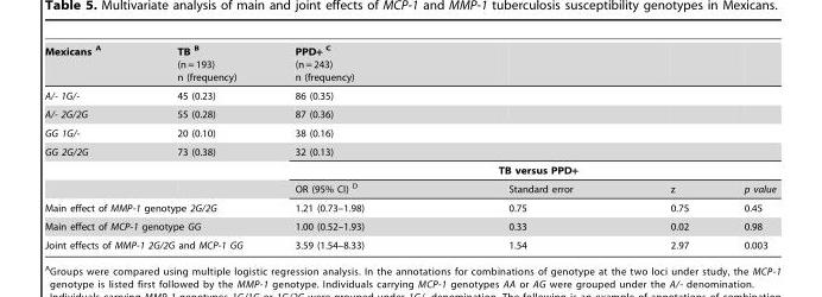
<table><tbody><tr><td>Mexicans A</td><td>TB B (n = 193) n (frequency)</td><td>PPD+ C (n = 243) n (frequency)</td><td></td><td></td><td></td></tr><tr><td>A/- 1G/-</td><td>45 (0.23)</td><td>86 (0.35)</td><td></td><td></td><td></td></tr><tr><td>A/- 2G/2G</td><td>55 (0.28)</td><td>87 (0.36)</td><td></td><td></td><td></td></tr><tr><td>GG 1G/-</td><td>20 (0.10)</td><td>38 (0.16)</td><td></td><td></td><td></td></tr><tr><td rowspan="3">GG 2G/2G</td><td>73 (0.38)</td><td colspan="4">32 (0.13)</td></tr><tr><td></td><td colspan="4">TB versus PPD+</td></tr><tr><td></td><td>OR (95% CI) D</td><td>Standard error</td><td>z</td><td>p value</td></tr><tr><td colspan="2">Main effect of MMP-1 genotype 2G/2G</td><td>1.21 (0.73–1.98)</td><td>0.75</td><td>0.75</td><td>0.45</td></tr><tr><td colspan="2">Main effect of MCP-1 genotype GG</td><td>1.00 (0.52–1.93)</td><td>0.33</td><td>0.02</td><td>0.98</td></tr><tr><td colspan="2">Joint effects of MMP-1 2G/2G and MCP-1 GG</td><td>3.59 (1.54–8.33)</td><td>1.54</td><td>2.97</td><td>0.003</td></tr></tbody></table>